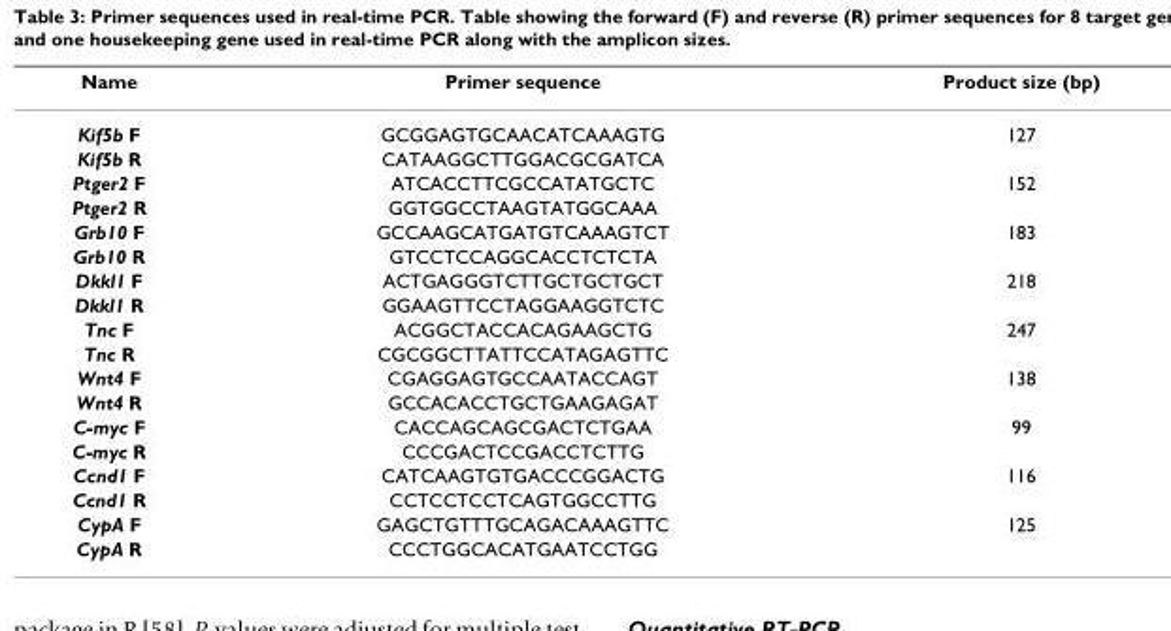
<table><thead><tr><td>Name</td><td>Primer sequence</td><td>Product size (bp)</td></tr></thead><tbody><tr><td>Kif5b F</td><td>GCGGAGTGCAACATCAAAGTG</td><td>127</td></tr><tr><td>Kif5b R</td><td>CATAAGGCTTGGACGCGATCA</td><td></td></tr><tr><td>Ptger2 F</td><td>ATCACCTTCGCCATATGCTC</td><td>152</td></tr><tr><td>Ptger2 R</td><td>GGTGGCCTAAGTATGGCAAA</td><td></td></tr><tr><td>Grb10 F</td><td>GCCAAGCATGATGTCAAAGTCT</td><td>183</td></tr><tr><td>Grb10 R</td><td>GTCCTCCAGGCACCTCTCTA</td><td></td></tr><tr><td>Dkkl1 F</td><td>ACTGAGGGTCTTGCTGCTGCT</td><td>218</td></tr><tr><td>Dkkl1 R</td><td>GGAAGTTCCTAGGAAGGTCTC</td><td></td></tr><tr><td>Tnc F</td><td>ACGGCTACCACAGAAGCTG</td><td>247</td></tr><tr><td>Tnc R</td><td>CGCGGCTTATTCCATAGAGTTC</td><td></td></tr><tr><td>Wnt4 F</td><td>CGAGGAGTGCCAATACCAGT</td><td>138</td></tr><tr><td>Wnt4 R</td><td>GCCACACCTGCTGAAGAGAT</td><td></td></tr><tr><td>C-myc F</td><td>CACCAGCAGCGACTCTGAA</td><td>99</td></tr><tr><td>C-myc R</td><td>CCCGACTCCGACCTCTTG</td><td></td></tr><tr><td>Ccnd1 F</td><td>CATCAAGTGTGACCCGGACTG</td><td>116</td></tr><tr><td>Ccnd1 R</td><td>CCTCCTCCTCAGTGGCCTTG</td><td></td></tr><tr><td>CypA F</td><td>GAGCTGTTTGCAGACAAAGTTC</td><td>125</td></tr><tr><td>CypA R</td><td>CCCTGGCACATGAATCCTGG</td><td></td></tr></tbody></table>